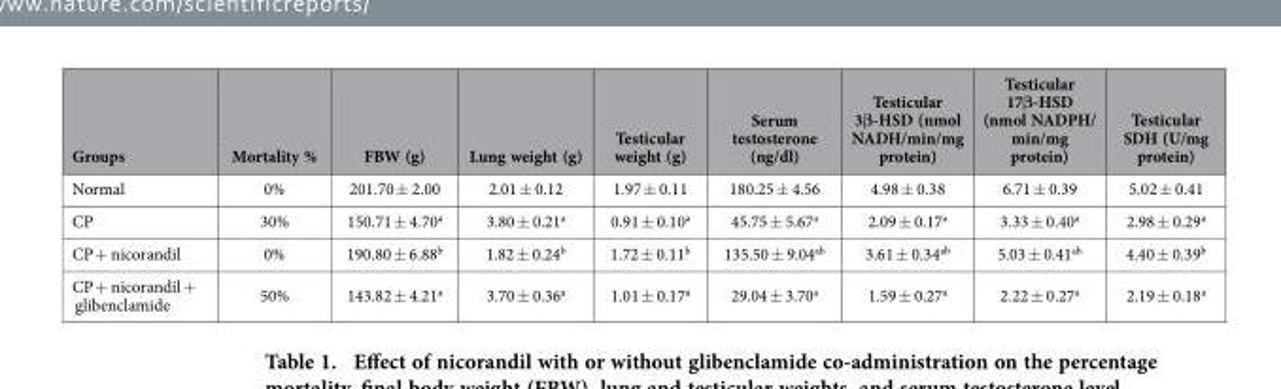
<table><thead><tr><td>Groups</td><td>Mortality %</td><td>FBW (g)</td><td>Lung weight (g)</td><td>Testicular weight (g)</td><td>Serum testosterone (ng/dl)</td><td>Testicular 3β-HSD (nmol NADH/min/mg protein)</td><td>Testicular 17β-HSD (nmol NADPH/ min/mg protein)</td><td>Testicular SDH (U/mg protein)</td></tr></thead><tbody><tr><td>Normal</td><td>0%</td><td>201.70 ± 2.00</td><td>2.01 ± 0.12</td><td>1.97 ± 0.11</td><td>180.25 ± 4.56</td><td>4.98 ± 0.38</td><td>6.71 ± 0.39</td><td>5.02 ± 0.41</td></tr><tr><td>CP</td><td>30%</td><td>150.71 ± 4.70<sup>a</sup></td><td>3.80 ± 0.21<sup>a</sup></td><td>0.91 ± 0.10<sup>a</sup></td><td>45.75 ± 5.67<sup>a</sup></td><td>2.09 ± 0.17<sup>a</sup></td><td>3.33 ± 0.40<sup>a</sup></td><td>2.98 ± 0.29<sup>a</sup></td></tr><tr><td>CP + nicorandil</td><td>0%</td><td>190.80 ± 6.88<sup>b</sup></td><td>1.82 ± 0.24<sup>b</sup></td><td>1.72 ± 0.11<sup>b</sup></td><td>135.50 ± 9.04<sup>ab</sup></td><td>3.61 ± 0.34<sup>ab</sup></td><td>5.03 ± 0.41<sup>ab</sup></td><td>4.40 ± 0.39<sup>b</sup></td></tr><tr><td>CP + nicorandil + glibenclamide</td><td>50%</td><td>143.82 ± 4.21<sup>a</sup></td><td>3.70 ± 0.36<sup>a</sup></td><td>1.01 ± 0.17<sup>a</sup></td><td>29.04 ± 3.70<sup>a</sup></td><td>1.59 ± 0.27<sup>a</sup></td><td>2.22 ± 0.27<sup>a</sup></td><td>2.19 ± 0.18<sup>a</sup></td></tr></tbody></table>